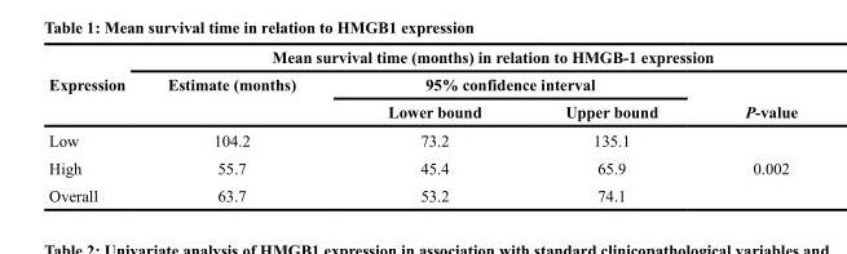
<table><thead><tr><td rowspan="3">Expression</td><td colspan="4">Mean survival time (months) in relation to HMGB-1 expression</td></tr><tr><td rowspan="2">Estimate (months)</td><td colspan="2">95% confidence interval</td><td rowspan="2">P-value</td></tr><tr><td>Lower bound</td><td>Upper bound</td></tr></thead><tbody><tr><td>Low</td><td>104.2</td><td>73.2</td><td>135.1</td><td></td></tr><tr><td>High</td><td>55.7</td><td>45.4</td><td>65.9</td><td>0.002</td></tr><tr><td>Overall</td><td>63.7</td><td>53.2</td><td>74.1</td><td></td></tr></tbody></table>